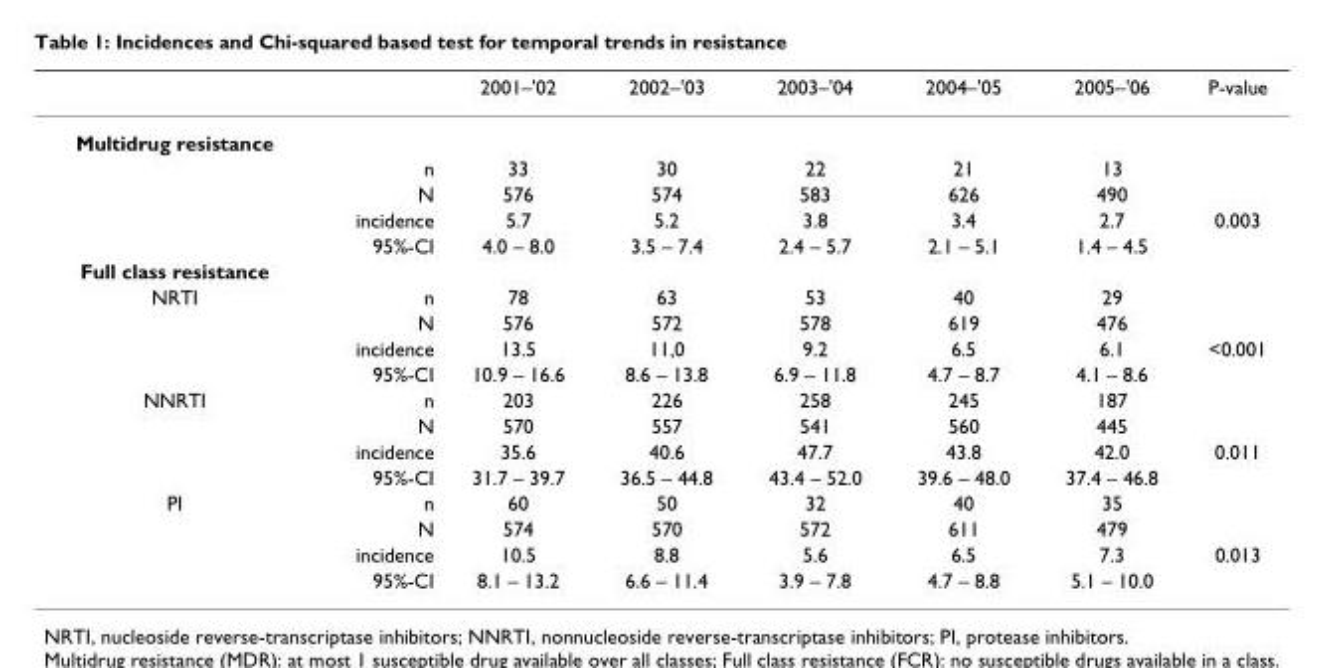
<table><thead><tr><td></td><td></td><td>2001–&#x27;02</td><td>2002–&#x27;03</td><td>2003–&#x27;04</td><td>2004–&#x27;05</td><td>2005–&#x27;06</td><td>P-value</td></tr></thead><tbody><tr><td colspan="8">Multidrug resistance</td></tr><tr><td></td><td>n</td><td>33</td><td>30</td><td>22</td><td>21</td><td>13</td><td></td></tr><tr><td></td><td>N</td><td>576</td><td>574</td><td>583</td><td>626</td><td>490</td><td></td></tr><tr><td></td><td>incidence</td><td>5.7</td><td>5.2</td><td>3.8</td><td>3.4</td><td>2.7</td><td>0.003</td></tr><tr><td></td><td>95%-CI</td><td>4.0 – 8.0</td><td>3.5 – 7.4</td><td>2.4 – 5.7</td><td>2.1 – 5.1</td><td>1.4 – 4.5</td><td></td></tr><tr><td colspan="8">Full class resistance</td></tr><tr><td rowspan="4">NRTI</td><td>n</td><td>78</td><td>63</td><td>53</td><td>40</td><td>29</td><td></td></tr><tr><td>N</td><td>576</td><td>572</td><td>578</td><td>619</td><td>476</td><td></td></tr><tr><td>incidence</td><td>13.5</td><td>11,0</td><td>9.2</td><td>6.5</td><td>6.1</td><td>&lt;0.001</td></tr><tr><td>95%-CI</td><td>10.9 – 16.6</td><td>8.6 – 13.8</td><td>6.9 – 11.8</td><td>4.7 – 8.7</td><td>4.1 – 8.6</td><td></td></tr><tr><td rowspan="4">NNRTI</td><td>n</td><td>203</td><td>226</td><td>258</td><td>245</td><td>187</td><td></td></tr><tr><td>N</td><td>570</td><td>557</td><td>541</td><td>560</td><td>445</td><td></td></tr><tr><td>incidence</td><td>35.6</td><td>40.6</td><td>47.7</td><td>43.8</td><td>42.0</td><td>0.011</td></tr><tr><td>95%-CI</td><td>31.7 – 39.7</td><td>36.5 – 44.8</td><td>43.4 – 52.0</td><td>39.6 – 48.0</td><td>37.4 – 46.8</td><td></td></tr><tr><td rowspan="4">PI</td><td>n</td><td>60</td><td>50</td><td>32</td><td>40</td><td>35</td><td></td></tr><tr><td>N</td><td>574</td><td>570</td><td>572</td><td>611</td><td>479</td><td></td></tr><tr><td>incidence</td><td>10.5</td><td>8.8</td><td>5.6</td><td>6.5</td><td>7.3</td><td>0.013</td></tr><tr><td>95%-CI</td><td>8.1 – 13.2</td><td>6.6 – 11.4</td><td>3.9 – 7.8</td><td>4.7 – 8.8</td><td>5.1 – 10.0</td><td></td></tr></tbody></table>